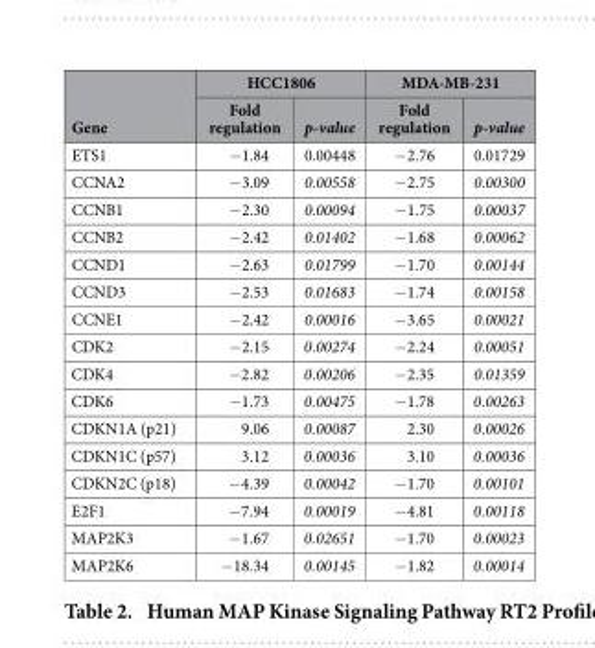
<table><thead><tr><td rowspan="2">Gene</td><td colspan="2">HCC1806</td><td colspan="2">MDA-MB-231</td></tr><tr><td>Fold regulation</td><td>p-value</td><td>Fold regulation</td><td>p-value</td></tr></thead><tbody><tr><td>ETS1</td><td>−1.84</td><td>0.00448</td><td>−2.76</td><td>0.01729</td></tr><tr><td>CCNA2</td><td>−3.09</td><td>0.00558</td><td>−2.75</td><td>0.00300</td></tr><tr><td>CCNB1</td><td>−2.30</td><td>0.00094</td><td>−1.75</td><td>0.00037</td></tr><tr><td>CCNB2</td><td>−2.42</td><td>0.01402</td><td>−1.68</td><td>0.00062</td></tr><tr><td>CCND1</td><td>−2.63</td><td>0.01799</td><td>−1.70</td><td>0.00144</td></tr><tr><td>CCND3</td><td>−2.53</td><td>0.01683</td><td>−1.74</td><td>0.00158</td></tr><tr><td>CCNE1</td><td>−2.42</td><td>0.00016</td><td>−3.65</td><td>0.00021</td></tr><tr><td>CDK2</td><td>−2.15</td><td>0.00274</td><td>−2.24</td><td>0.00051</td></tr><tr><td>CDK4</td><td>−2.82</td><td>0.00206</td><td>−2.35</td><td>0.01359</td></tr><tr><td>CDK6</td><td>−1.73</td><td>0.00475</td><td>−1.78</td><td>0.00263</td></tr><tr><td>CDKN1A (p21)</td><td>9.06</td><td>0.00087</td><td>2.30</td><td>0.00026</td></tr><tr><td>CDKN1C (p57)</td><td>3.12</td><td>0.00036</td><td>3.10</td><td>0.00036</td></tr><tr><td>CDKN2C (p18)</td><td>−4.39</td><td>0.00042</td><td>−1.70</td><td>0.00101</td></tr><tr><td>E2F1</td><td>−7.94</td><td>0.00019</td><td>−4.81</td><td>0.00118</td></tr><tr><td>MAP2K3</td><td>−1.67</td><td>0.02651</td><td>−1.70</td><td>0.00023</td></tr><tr><td>MAP2K6</td><td>−18.34</td><td>0.00145</td><td>−1.82</td><td>0.00014</td></tr></tbody></table>